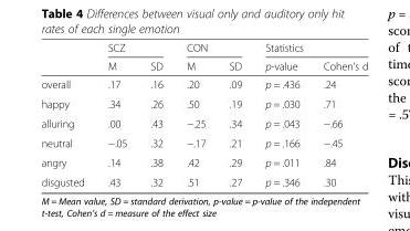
<table><thead><tr><td rowspan="2"></td><td colspan="2">SCZ</td><td colspan="2">CON</td><td colspan="2">Statistics</td></tr><tr><td>M</td><td>SD</td><td>M</td><td>SD</td><td>p-value</td><td>Cohen’s d</td></tr></thead><tbody><tr><td>overall</td><td>.17</td><td>.16</td><td>.20</td><td>.09</td><td>p = .436</td><td>.24</td></tr><tr><td>happy</td><td>.34</td><td>.26</td><td>.50</td><td>.19</td><td>p = .030</td><td>.71</td></tr><tr><td>alluring</td><td>.00</td><td>.43</td><td>−.25</td><td>.34</td><td>p = .043</td><td>−.66</td></tr><tr><td>neutral</td><td>−.05</td><td>.32</td><td>−.17</td><td>.21</td><td>p = .166</td><td>−.45</td></tr><tr><td>angry</td><td>.14</td><td>.38</td><td>.42</td><td>.29</td><td>p = .011</td><td>.84</td></tr><tr><td>disgusted</td><td>.43</td><td>.32</td><td>.51</td><td>.27</td><td>p = .346</td><td>.30</td></tr></tbody></table>